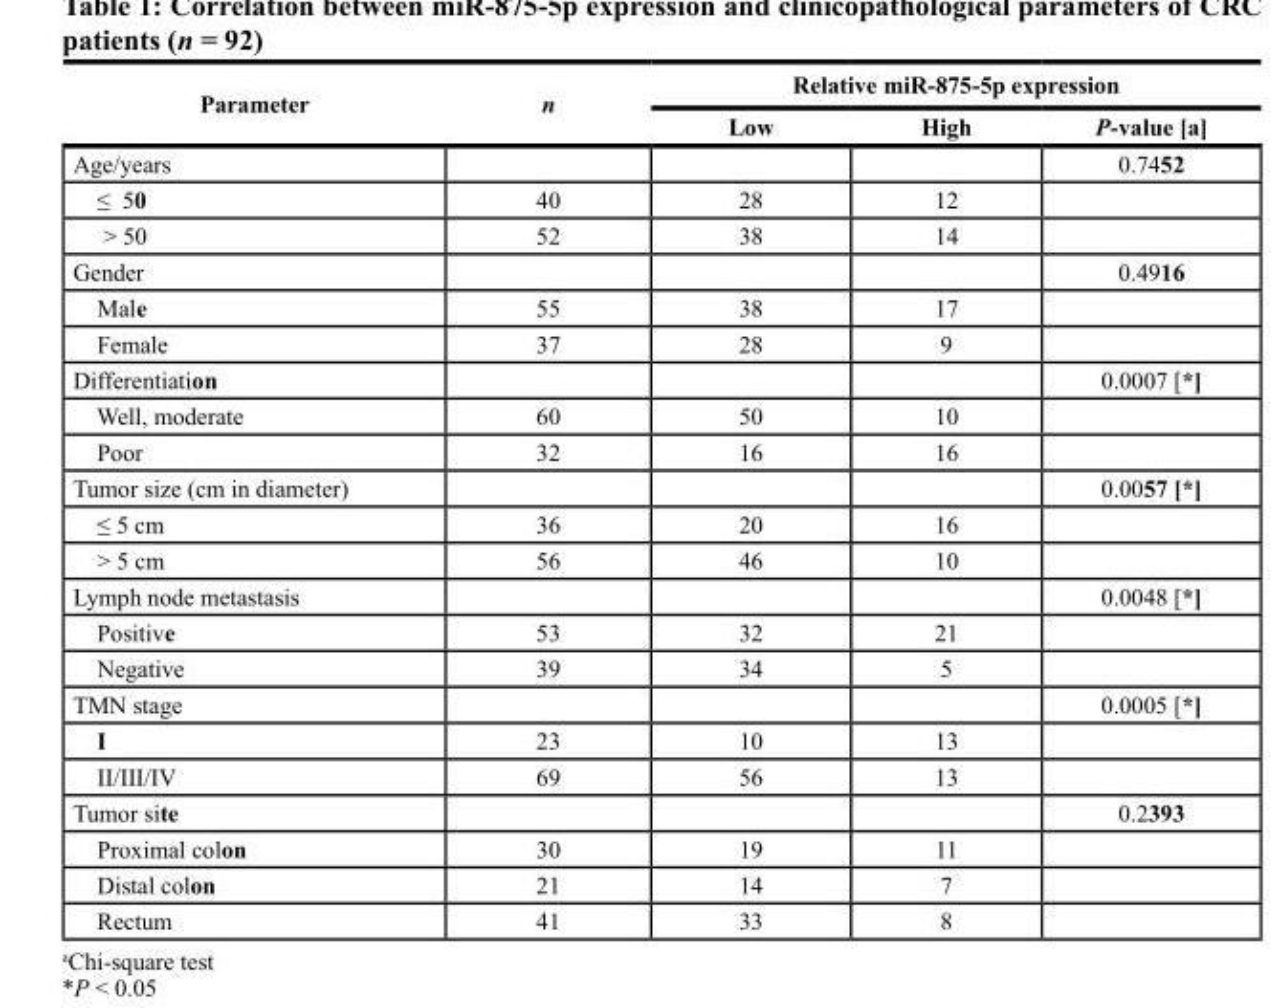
<table><thead><tr><td rowspan="2">Parameter</td><td rowspan="2">n</td><td colspan="3">Relative miR-875-5p expression</td></tr><tr><td>Low</td><td>High</td><td>P-value [a]</td></tr></thead><tbody><tr><td>Age/years</td><td></td><td></td><td></td><td>0.7452</td></tr><tr><td>≤ 50</td><td>40</td><td>28</td><td>12</td><td></td></tr><tr><td>&gt; 50</td><td>52</td><td>38</td><td>14</td><td></td></tr><tr><td>Gender</td><td></td><td></td><td></td><td>0.4916</td></tr><tr><td>Male</td><td>55</td><td>38</td><td>17</td><td></td></tr><tr><td>Female</td><td>37</td><td>28</td><td>9</td><td></td></tr><tr><td>Differentiation</td><td></td><td></td><td></td><td>0.0007 [*]</td></tr><tr><td>Well, moderate</td><td>60</td><td>50</td><td>10</td><td></td></tr><tr><td>Poor</td><td>32</td><td>16</td><td>16</td><td></td></tr><tr><td>Tumor size (cm in diameter)</td><td></td><td></td><td></td><td>0.0057 [*]</td></tr><tr><td>≤ 5 cm</td><td>36</td><td>20</td><td>16</td><td></td></tr><tr><td>&gt; 5 cm</td><td>56</td><td>46</td><td>10</td><td></td></tr><tr><td>Lymph node metastasis</td><td></td><td></td><td></td><td>0.0048 [*]</td></tr><tr><td>Positive</td><td>53</td><td>32</td><td>21</td><td></td></tr><tr><td>Negative</td><td>39</td><td>34</td><td>5</td><td></td></tr><tr><td>TMN stage</td><td></td><td></td><td></td><td>0.0005 [*]</td></tr><tr><td>I</td><td>23</td><td>10</td><td>13</td><td></td></tr><tr><td>II/III/IV</td><td>69</td><td>56</td><td>13</td><td></td></tr><tr><td>Tumor site</td><td></td><td></td><td></td><td>0.2393</td></tr><tr><td>Proximal colon</td><td>30</td><td>19</td><td>11</td><td></td></tr><tr><td>Distal colon</td><td>21</td><td>14</td><td>7</td><td></td></tr><tr><td>Rectum</td><td>41</td><td>33</td><td>8</td><td></td></tr></tbody></table>